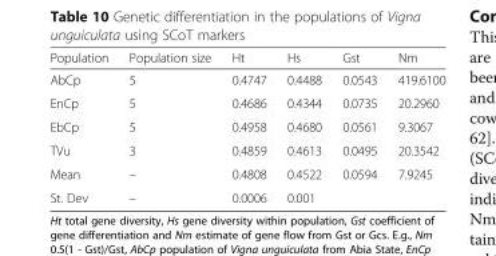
<table><thead><tr><td>Population</td><td>Population size</td><td>Ht</td><td>Hs</td><td>Gst</td><td>Nm</td></tr></thead><tbody><tr><td>AbCp</td><td>5</td><td>0.4747</td><td>0.4488</td><td>0.0543</td><td>419.6100</td></tr><tr><td>EnCp</td><td>5</td><td>0.4686</td><td>0.4344</td><td>0.0735</td><td>20.2960</td></tr><tr><td>EbCp</td><td>5</td><td>0.4958</td><td>0.4680</td><td>0.0561</td><td>9.3067</td></tr><tr><td>TVu</td><td>3</td><td>0.4859</td><td>0.4613</td><td>0.0495</td><td>20.3542</td></tr><tr><td>Mean</td><td>–</td><td>0.4808</td><td>0.4522</td><td>0.0594</td><td>7.9245</td></tr><tr><td>St. Dev</td><td>–</td><td>0.0006</td><td>0.001</td><td></td><td></td></tr></tbody></table>